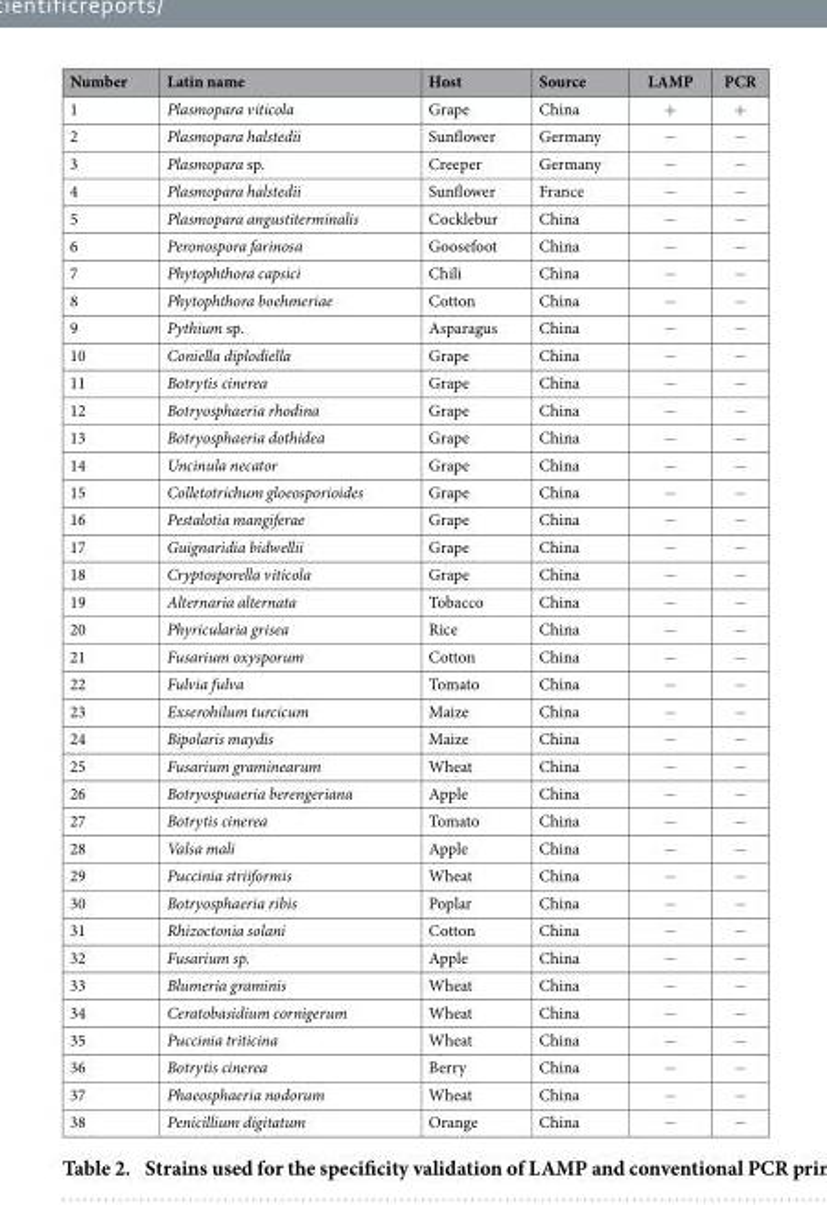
<table><thead><tr><td>Number</td><td>Latin name</td><td>Host</td><td>Source</td><td>LAMP</td><td>PCR</td></tr></thead><tbody><tr><td>1</td><td>Plasmopara viticola</td><td>Grape</td><td>China</td><td>+</td><td>+</td></tr><tr><td>2</td><td>Plasmopara halstedii</td><td>Sunflower</td><td>Germany</td><td>−</td><td>−</td></tr><tr><td>3</td><td>Plasmopara sp.</td><td>Creeper</td><td>Germany</td><td>−</td><td>−</td></tr><tr><td>4</td><td>Plasmopara halstedii</td><td>Sunflower</td><td>France</td><td>−</td><td>−</td></tr><tr><td>5</td><td>Plasmopara angustiterminalis</td><td>Cocklebur</td><td>China</td><td>−</td><td>−</td></tr><tr><td>6</td><td>Peronospora farinosa</td><td>Goosefoot</td><td>China</td><td>−</td><td>−</td></tr><tr><td>7</td><td>Phytophthora capsici</td><td>Chili</td><td>China</td><td>−</td><td>−</td></tr><tr><td>8</td><td>Phytophthora boehmeriae</td><td>Cotton</td><td>China</td><td>−</td><td>−</td></tr><tr><td>9</td><td>Pythium sp.</td><td>Asparagus</td><td>China</td><td>−</td><td>−</td></tr><tr><td>10</td><td>Coniella diplodiella</td><td>Grape</td><td>China</td><td>−</td><td>−</td></tr><tr><td>11</td><td>Botrytis cinerea</td><td>Grape</td><td>China</td><td>−</td><td>−</td></tr><tr><td>12</td><td>Botryosphaeria rhodina</td><td>Grape</td><td>China</td><td>−</td><td>−</td></tr><tr><td>13</td><td>Botryosphaeria dothidea</td><td>Grape</td><td>China</td><td>−</td><td>−</td></tr><tr><td>14</td><td>Uncinula necator</td><td>Grape</td><td>China</td><td>−</td><td>−</td></tr><tr><td>15</td><td>Colletotrichum gloeosporioides</td><td>Grape</td><td>China</td><td>−</td><td>−</td></tr><tr><td>16</td><td>Pestalotia mangiferae</td><td>Grape</td><td>China</td><td>−</td><td>−</td></tr><tr><td>17</td><td>Guignaridia bidwellii</td><td>Grape</td><td>China</td><td>−</td><td>−</td></tr><tr><td>18</td><td>Cryptosporella viticola</td><td>Grape</td><td>China</td><td>−</td><td>−</td></tr><tr><td>19</td><td>Alternaria alternata</td><td>Tobacco</td><td>China</td><td>−</td><td>−</td></tr><tr><td>20</td><td>Phyricularia grisea</td><td>Rice</td><td>China</td><td>−</td><td>−</td></tr><tr><td>21</td><td>Fusarium oxysporum</td><td>Cotton</td><td>China</td><td>−</td><td>−</td></tr><tr><td>22</td><td>Fulvia fulva</td><td>Tomato</td><td>China</td><td>−</td><td>−</td></tr><tr><td>23</td><td>Exserohilum turcicum</td><td>Maize</td><td>China</td><td>−</td><td>−</td></tr><tr><td>24</td><td>Bipolaris maydis</td><td>Maize</td><td>China</td><td>−</td><td>−</td></tr><tr><td>25</td><td>Fusarium graminearum</td><td>Wheat</td><td>China</td><td>−</td><td>−</td></tr><tr><td>26</td><td>Botryospuaeria berengeriana</td><td>Apple</td><td>China</td><td>−</td><td>−</td></tr><tr><td>27</td><td>Botrytis cinerea</td><td>Tomato</td><td>China</td><td>−</td><td>−</td></tr><tr><td>28</td><td>Valsa mali</td><td>Apple</td><td>China</td><td>−</td><td>−</td></tr><tr><td>29</td><td>Puccinia striiformis</td><td>Wheat</td><td>China</td><td>−</td><td>−</td></tr><tr><td>30</td><td>Botryosphaeria ribis</td><td>Poplar</td><td>China</td><td>−</td><td>−</td></tr><tr><td>31</td><td>Rhizoctonia solani</td><td>Cotton</td><td>China</td><td>−</td><td>−</td></tr><tr><td>32</td><td>Fusarium sp.</td><td>Apple</td><td>China</td><td>−</td><td>−</td></tr><tr><td>33</td><td>Blumeria graminis</td><td>Wheat</td><td>China</td><td>−</td><td>−</td></tr><tr><td>34</td><td>Ceratobasidium cornigerum</td><td>Wheat</td><td>China</td><td>−</td><td>−</td></tr><tr><td>35</td><td>Puccinia triticina</td><td>Wheat</td><td>China</td><td>−</td><td>−</td></tr><tr><td>36</td><td>Botrytis cinerea</td><td>Berry</td><td>China</td><td>−</td><td>−</td></tr><tr><td>37</td><td>Phaeosphaeria nodorum</td><td>Wheat</td><td>China</td><td>−</td><td>−</td></tr><tr><td>38</td><td>Penicillium digitatum</td><td>Orange</td><td>China</td><td>−</td><td>−</td></tr></tbody></table>